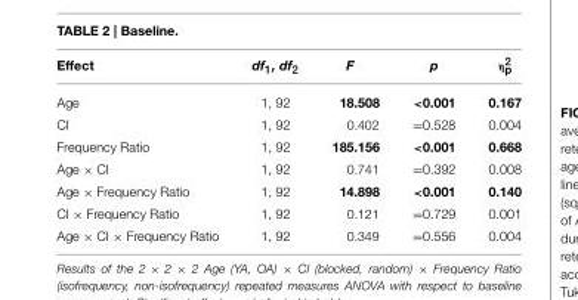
<table><thead><tr><td>Effect</td><td>df<sub>1</sub>, df<sub>2</sub></td><td>F</td><td>p</td><td>η<sup>2</sup><sub>p</sub></td></tr></thead><tbody><tr><td>Age</td><td>1, 92</td><td>18.508</td><td>&lt;0.001</td><td>0.167</td></tr><tr><td>CI</td><td>1, 92</td><td>0.402</td><td>=0.528</td><td>0.004</td></tr><tr><td>Frequency Ratio</td><td>1, 92</td><td>185.156</td><td>&lt;0.001</td><td>0.668</td></tr><tr><td>Age × CI</td><td>1, 92</td><td>0.741</td><td>=0.392</td><td>0.008</td></tr><tr><td>Age × Frequency Ratio</td><td>1, 92</td><td>14.898</td><td>&lt;0.001</td><td>0.140</td></tr><tr><td>CI × Frequency Ratio</td><td>1, 92</td><td>0.121</td><td>=0.729</td><td>0.001</td></tr><tr><td>Age × CI × Frequency Ratio</td><td>1, 92</td><td>0.349</td><td>=0.556</td><td>0.004</td></tr></tbody></table>